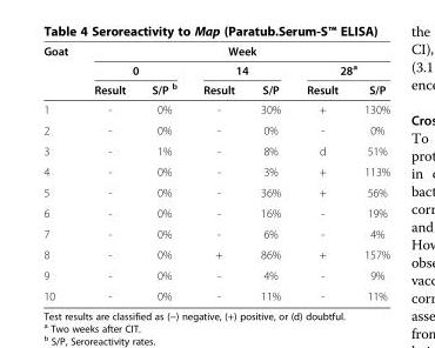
<table><thead><tr><td rowspan="3">Goat</td><td colspan="6">Week</td></tr><tr><td colspan="2">0</td><td colspan="2">14</td><td colspan="2">28<sup>a</sup></td></tr><tr><td>Result</td><td>S/P <sup>b</sup></td><td>Result</td><td>S/P</td><td>Result</td><td>S/P</td></tr></thead><tbody><tr><td>1</td><td>-</td><td>0%</td><td>-</td><td>30%</td><td>+</td><td>130%</td></tr><tr><td>2</td><td>-</td><td>0%</td><td>-</td><td>0%</td><td>-</td><td>0%</td></tr><tr><td>3</td><td>-</td><td>1%</td><td>-</td><td>8%</td><td>d</td><td>51%</td></tr><tr><td>4</td><td>-</td><td>0%</td><td>-</td><td>3%</td><td>+</td><td>113%</td></tr><tr><td>5</td><td>-</td><td>0%</td><td>-</td><td>36%</td><td>+</td><td>56%</td></tr><tr><td>6</td><td>-</td><td>0%</td><td>-</td><td>16%</td><td>-</td><td>19%</td></tr><tr><td>7</td><td>-</td><td>0%</td><td>-</td><td>6%</td><td>-</td><td>4%</td></tr><tr><td>8</td><td>-</td><td>0%</td><td>+</td><td>86%</td><td>+</td><td>157%</td></tr><tr><td>9</td><td>-</td><td>0%</td><td>-</td><td>4%</td><td>-</td><td>9%</td></tr><tr><td>10</td><td>-</td><td>0%</td><td>-</td><td>11%</td><td>-</td><td>11%</td></tr></tbody></table>